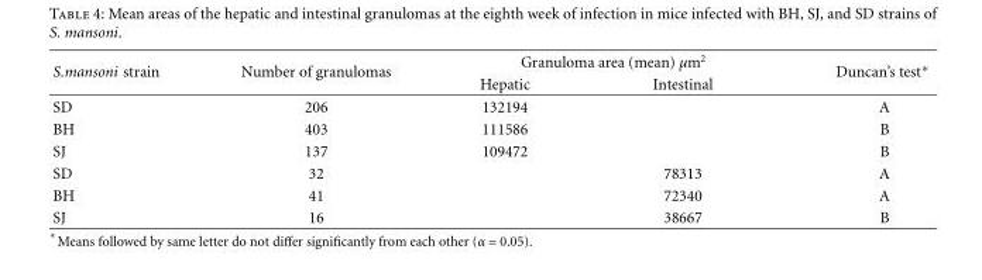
<table><thead><tr><td rowspan="2">S.mansoni strain</td><td rowspan="2">Number of granulomas</td><td colspan="2">Granuloma area (mean) μm<sup>2</sup></td><td rowspan="2">Duncan’s test∗</td></tr><tr><td>Hepatic</td><td>Intestinal</td></tr></thead><tbody><tr><td>SD</td><td>206</td><td>132194</td><td></td><td>A</td></tr><tr><td>BH</td><td>403</td><td>111586</td><td></td><td>B</td></tr><tr><td>SJ</td><td>137</td><td>109472</td><td></td><td>B</td></tr><tr><td>SD</td><td>32</td><td></td><td>78313</td><td>A</td></tr><tr><td>BH</td><td>41</td><td></td><td>72340</td><td>A</td></tr><tr><td>SJ</td><td>16</td><td></td><td>38667</td><td>B</td></tr></tbody></table>